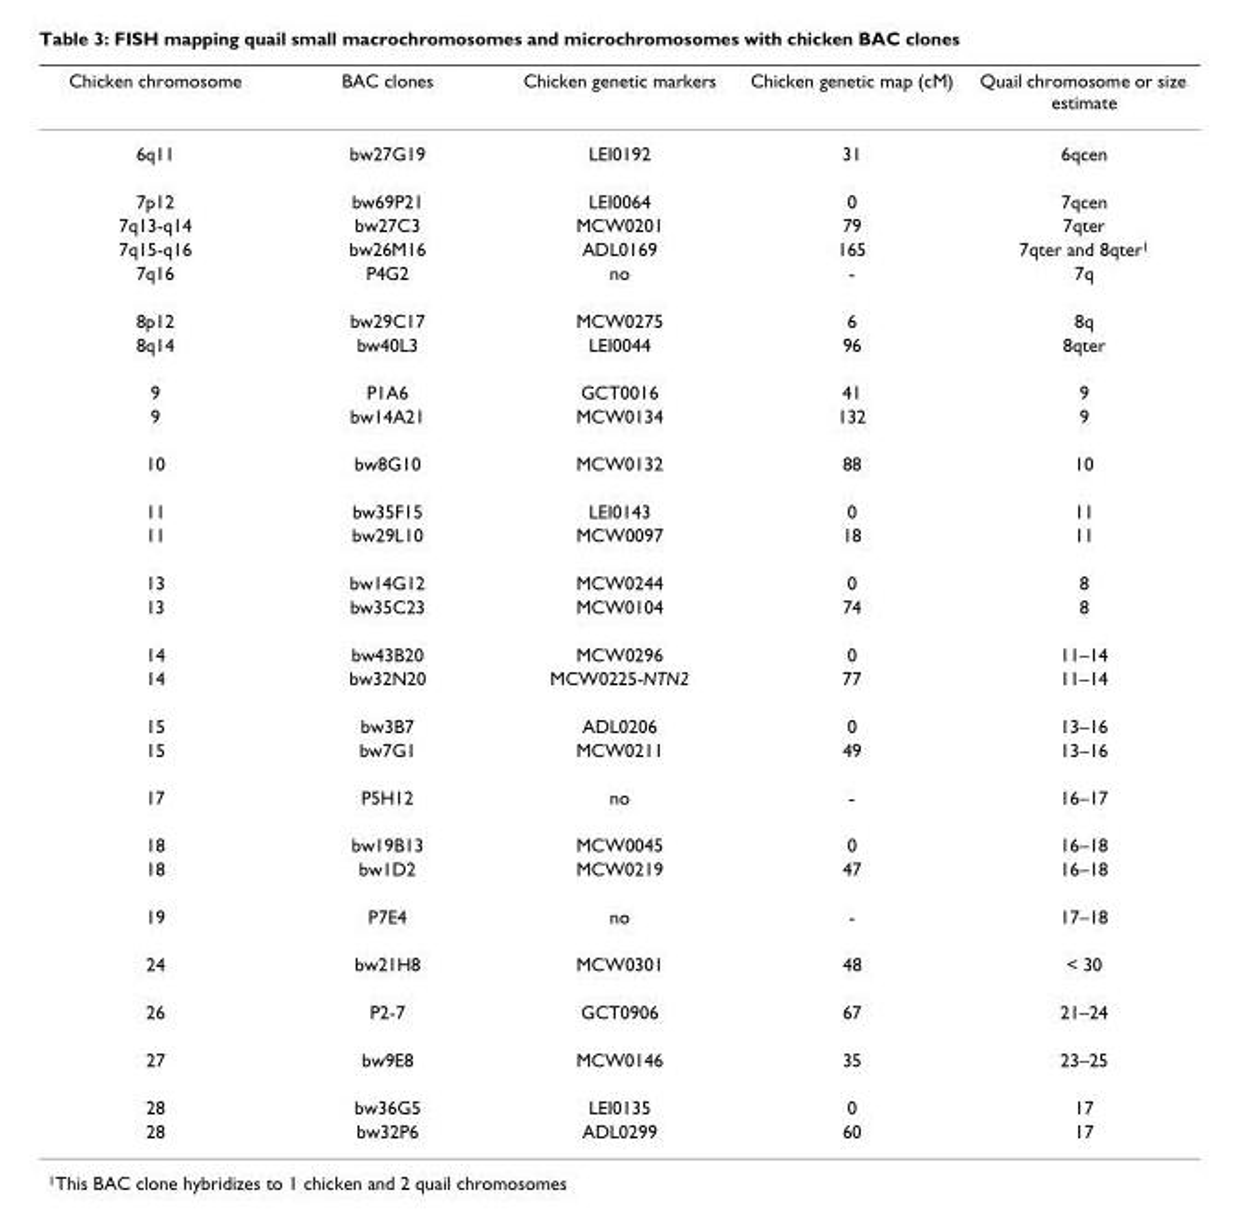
<table><thead><tr><td>Chicken chromosome</td><td>BAC clones</td><td>Chicken genetic markers</td><td>Chicken genetic map (cM)</td><td>Quail chromosome or size estimate</td></tr></thead><tbody><tr><td>6q11</td><td>bw27G19</td><td>LEI0192</td><td>31</td><td>6qcen</td></tr><tr><td>7p12</td><td>bw69P21</td><td>LEI0064</td><td>0</td><td>7qcen</td></tr><tr><td>7q13-q14</td><td>bw27C3</td><td>MCW0201</td><td>79</td><td>7qter</td></tr><tr><td>7q15-q16</td><td>bw26M16</td><td>ADL0169</td><td>165</td><td>7qter and 8qter1</td></tr><tr><td>7q16</td><td>P4G2</td><td>no</td><td>-</td><td>7q</td></tr><tr><td>8p12</td><td>bw29C17</td><td>MCW0275</td><td>6</td><td>8q</td></tr><tr><td>8q14</td><td>bw40L3</td><td>LEI0044</td><td>96</td><td>8qter</td></tr><tr><td>9</td><td>P1A6</td><td>GCT0016</td><td>41</td><td>9</td></tr><tr><td>9</td><td>bw14A21</td><td>MCW0134</td><td>132</td><td>9</td></tr><tr><td>10</td><td>bw8G10</td><td>MCW0132</td><td>88</td><td>10</td></tr><tr><td>11</td><td>bw35F15</td><td>LEI0143</td><td>0</td><td>11</td></tr><tr><td>11</td><td>bw29L10</td><td>MCW0097</td><td>18</td><td>11</td></tr><tr><td>13</td><td>bw14G12</td><td>MCW0244</td><td>0</td><td>8</td></tr><tr><td>13</td><td>bw35C23</td><td>MCW0104</td><td>74</td><td>8</td></tr><tr><td>14</td><td>bw43B20</td><td>MCW0296</td><td>0</td><td>11–14</td></tr><tr><td>14</td><td>bw32N20</td><td>MCW0225-NTN2</td><td>77</td><td>11–14</td></tr><tr><td>15</td><td>bw3B7</td><td>ADL0206</td><td>0</td><td>13–16</td></tr><tr><td>15</td><td>bw7G1</td><td>MCW0211</td><td>49</td><td>13–16</td></tr><tr><td>17</td><td>P5H12</td><td>no</td><td>-</td><td>16–17</td></tr><tr><td>18</td><td>bw19B13</td><td>MCW0045</td><td>0</td><td>16–18</td></tr><tr><td>18</td><td>bw1D2</td><td>MCW0219</td><td>47</td><td>16–18</td></tr><tr><td>19</td><td>P7E4</td><td>no</td><td>-</td><td>17–18</td></tr><tr><td>24</td><td>bw21H8</td><td>MCW0301</td><td>48</td><td>&lt; 30</td></tr><tr><td>26</td><td>P2-7</td><td>GCT0906</td><td>67</td><td>21–24</td></tr><tr><td>27</td><td>bw9E8</td><td>MCW0146</td><td>35</td><td>23–25</td></tr><tr><td>28</td><td>bw36G5</td><td>LEI0135</td><td>0</td><td>17</td></tr><tr><td>28</td><td>bw32P6</td><td>ADL0299</td><td>60</td><td>17</td></tr></tbody></table>